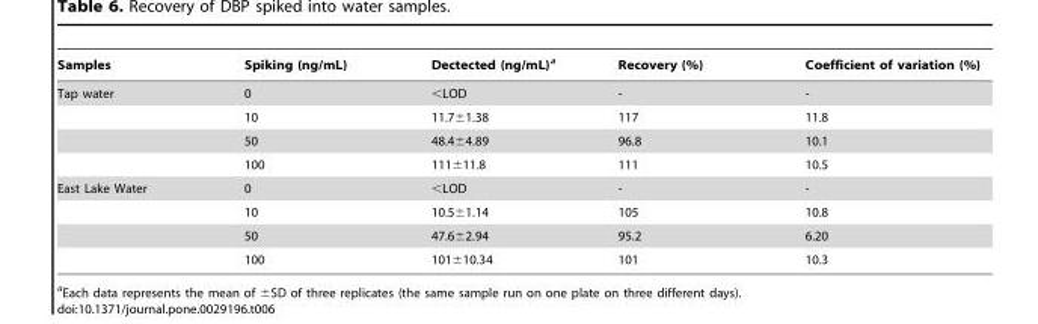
<table><thead><tr><td>Samples</td><td>Spiking (ng/mL)</td><td>Dectected (ng/mL)<sup>a</sup></td><td>Recovery (%)</td><td>Coefficient of variation (%)</td></tr></thead><tbody><tr><td rowspan="4">Tap water</td><td>0</td><td>&lt;LOD</td><td>-</td><td>-</td></tr><tr><td>10</td><td>11.7±1.38</td><td>117</td><td>11.8</td></tr><tr><td>50</td><td>48.4±4.89</td><td>96.8</td><td>10.1</td></tr><tr><td>100</td><td>111±11.8</td><td>111</td><td>10.5</td></tr><tr><td rowspan="4">East Lake Water</td><td>0</td><td>&lt;LOD</td><td>-</td><td>-</td></tr><tr><td>10</td><td>10.5±1.14</td><td>105</td><td>10.8</td></tr><tr><td>50</td><td>47.6±2.94</td><td>95.2</td><td>6.20</td></tr><tr><td>100</td><td>101±10.34</td><td>101</td><td>10.3</td></tr></tbody></table>